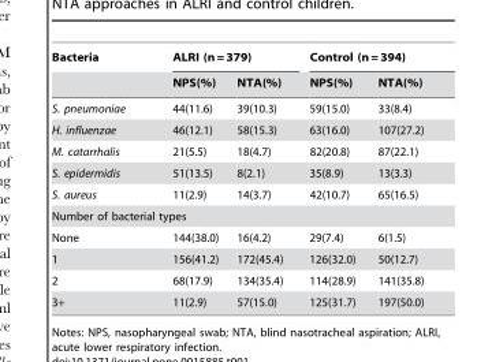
<table><thead><tr><td rowspan="2">Bacteria</td><td colspan="2">ALRI (n = 379)</td><td colspan="2">Control (n = 394)</td></tr><tr><td>NPS(%)</td><td>NTA(%)</td><td>NPS(%)</td><td>NTA(%)</td></tr></thead><tbody><tr><td>S. pneumoniae</td><td>44(11.6)</td><td>39(10.3)</td><td>59(15.0)</td><td>33(8.4)</td></tr><tr><td>H. influenzae</td><td>46(12.1)</td><td>58(15.3)</td><td>63(16.0)</td><td>107(27.2)</td></tr><tr><td>M. catarrhalis</td><td>21(5.5)</td><td>18(4.7)</td><td>82(20.8)</td><td>87(22.1)</td></tr><tr><td>S. epidermidis</td><td>51(13.5)</td><td>8(2.1)</td><td>35(8.9)</td><td>13(3.3)</td></tr><tr><td>S. aureus</td><td>11(2.9)</td><td>14(3.7)</td><td>42(10.7)</td><td>65(16.5)</td></tr><tr><td colspan="5">Number of bacterial types</td></tr><tr><td>None</td><td>144(38.0)</td><td>16(4.2)</td><td>29(7.4)</td><td>6(1.5)</td></tr><tr><td>1</td><td>156(41.2)</td><td>172(45.4)</td><td>126(32.0)</td><td>50(12.7)</td></tr><tr><td>2</td><td>68(17.9)</td><td>134(35.4)</td><td>114(28.9)</td><td>141(35.8)</td></tr><tr><td>3+</td><td>11(2.9)</td><td>57(15.0)</td><td>125(31.7)</td><td>197(50.0)</td></tr></tbody></table>